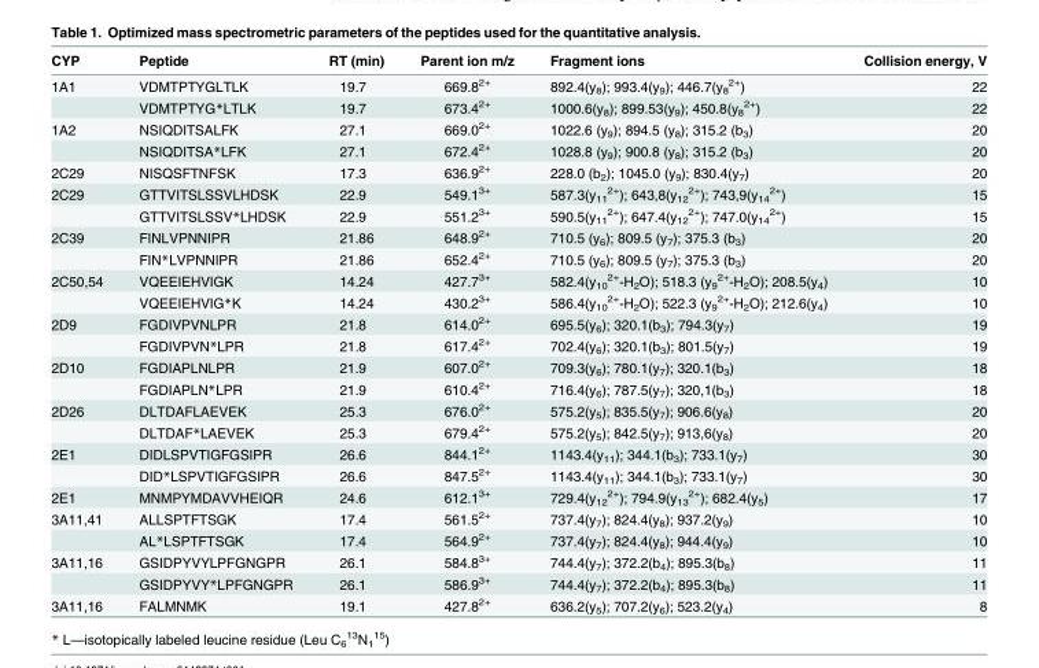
<table><thead><tr><td>CYP</td><td>Peptide</td><td>RT (min)</td><td>Parent ion m/z</td><td>Fragment ions</td><td>Collision energy, V</td></tr></thead><tbody><tr><td rowspan="2">1A1</td><td>VDMTPTYGLTLK</td><td>19.7</td><td>669.8<sup>2+</sup></td><td>892.4(y<sub>8</sub>); 993.4(y<sub>9</sub>); 446.7(y<sub>8</sub> <sup>2+</sup>)</td><td>22</td></tr><tr><td>VDMTPTYG*LTLK</td><td>19.7</td><td>673.4<sup>2+</sup></td><td>1000.6(y<sub>8</sub>); 899.53(y<sub>9</sub>); 450.8(y<sub>8</sub> <sup>2+</sup>)</td><td>22</td></tr><tr><td rowspan="2">1A2</td><td>NSIQDITSALFK</td><td>27.1</td><td>669.0<sup>2+</sup></td><td>1022.6 (y<sub>9</sub>); 894.5 (y<sub>8</sub>); 315.2 (b<sub>3</sub>)</td><td>20</td></tr><tr><td>NSIQDITSA*LFK</td><td>27.1</td><td>672.4<sup>2+</sup></td><td>1028.8 (y<sub>9</sub>); 900.8 (y<sub>8</sub>); 315.2 (b<sub>3</sub>)</td><td>20</td></tr><tr><td>2C29</td><td>NISQSFTNFSK</td><td>17.3</td><td>636.9<sup>2+</sup></td><td>228.0 (b<sub>2</sub>); 1045.0 (y<sub>9</sub>); 830.4(y<sub>7</sub>)</td><td>20</td></tr><tr><td rowspan="2">2C29</td><td>GTTVITSLSSVLHDSK</td><td>22.9</td><td>549.1<sup>3+</sup></td><td>587.3(y<sub>11</sub> <sup>2+</sup>); 643,8(y<sub>12</sub> <sup>2+</sup>); 743,9(y<sub>14</sub> <sup>2+</sup>)</td><td>15</td></tr><tr><td>GTTVITSLSSV*LHDSK</td><td>22.9</td><td>551.2<sup>3+</sup></td><td>590.5(y<sub>11</sub> <sup>2+</sup>); 647.4(y<sub>12</sub> <sup>2+</sup>); 747.0(y<sub>14</sub> <sup>2+</sup>)</td><td>15</td></tr><tr><td rowspan="2">2C39</td><td>FINLVPNNIPR</td><td>21.86</td><td>648.9<sup>2+</sup></td><td>710.5 (y<sub>6</sub>); 809.5 (y<sub>7</sub>); 375.3 (b<sub>3</sub>)</td><td>20</td></tr><tr><td>FIN*LVPNNIPR</td><td>21.86</td><td>652.4<sup>2+</sup></td><td>710.5 (y<sub>6</sub>); 809.5 (y<sub>7</sub>); 375.3 (b<sub>3</sub>)</td><td>20</td></tr><tr><td rowspan="2">2C50,54</td><td>VQEEIEHVIGK</td><td>14.24</td><td>427.7<sup>3+</sup></td><td>582.4(y<sub>10</sub> <sup>2+</sup>-H<sub>2</sub>O); 518.3 (y<sub>9</sub> <sup>2+</sup>-H<sub>2</sub>O); 208.5(y<sub>4</sub>)</td><td>10</td></tr><tr><td>VQEEIEHVIG*K</td><td>14.24</td><td>430.2<sup>3+</sup></td><td>586.4(y<sub>10</sub> <sup>2+</sup>-H<sub>2</sub>O); 522.3 (y<sub>9</sub> <sup>2+</sup>-H<sub>2</sub>O); 212.6(y<sub>4</sub>)</td><td>10</td></tr><tr><td rowspan="2">2D9</td><td>FGDIVPVNLPR</td><td>21.8</td><td>614.0<sup>2+</sup></td><td>695.5(y<sub>6</sub>); 320.1(b<sub>3</sub>); 794.3(y<sub>7</sub>)</td><td>19</td></tr><tr><td>FGDIVPVN*LPR</td><td>21.8</td><td>617.4<sup>2+</sup></td><td>702.4(y<sub>6</sub>); 320.1(b<sub>3</sub>); 801.5(y<sub>7</sub>)</td><td>19</td></tr><tr><td rowspan="2">2D10</td><td>FGDIAPLNLPR</td><td>21.9</td><td>607.0<sup>2+</sup></td><td>709.3(y<sub>6</sub>); 780.1(y<sub>7</sub>); 320.1(b<sub>3</sub>)</td><td>18</td></tr><tr><td>FGDIAPLN*LPR</td><td>21.9</td><td>610.4<sup>2+</sup></td><td>716.4(y<sub>6</sub>); 787.5(y<sub>7</sub>); 320,1(b<sub>3</sub>)</td><td>18</td></tr><tr><td rowspan="2">2D26</td><td>DLTDAFLAEVEK</td><td>25.3</td><td>676.0<sup>2+</sup></td><td>575.2(y<sub>5</sub>); 835.5(y<sub>7</sub>); 906.6(y<sub>8</sub>)</td><td>20</td></tr><tr><td>DLTDAF*LAEVEK</td><td>25.3</td><td>679.4<sup>2+</sup></td><td>575.2(y<sub>5</sub>); 842.5(y<sub>7</sub>); 913,6(y<sub>8</sub>)</td><td>20</td></tr><tr><td rowspan="2">2E1</td><td>DIDLSPVTIGFGSIPR</td><td>26.6</td><td>844.1<sup>2+</sup></td><td>1143.4(y<sub>11</sub>); 344.1(b<sub>3</sub>); 733.1(y<sub>7</sub>)</td><td>30</td></tr><tr><td>DID*LSPVTIGFGSIPR</td><td>26.6</td><td>847.5<sup>2+</sup></td><td>1143.4(y<sub>11</sub>); 344.1(b<sub>3</sub>); 733.1(y<sub>7</sub>)</td><td>30</td></tr><tr><td>2E1</td><td>MNMPYMDAVVHEIQR</td><td>24.6</td><td>612.1<sup>3+</sup></td><td>729.4(y<sub>12</sub> <sup>2+</sup>); 794.9(y<sub>13</sub> <sup>2+</sup>); 682.4(y<sub>5</sub>)</td><td>17</td></tr><tr><td rowspan="2">3A11,41</td><td>ALLSPTFTSGK</td><td>17.4</td><td>561.5<sup>2+</sup></td><td>737.4(y<sub>7</sub>); 824.4(y<sub>8</sub>); 937.2(y<sub>9</sub>)</td><td>10</td></tr><tr><td>AL*LSPTFTSGK</td><td>17.4</td><td>564.9<sup>2+</sup></td><td>737.4(y<sub>7</sub>); 824.4(y<sub>8</sub>); 944.4(y<sub>9</sub>)</td><td>10</td></tr><tr><td rowspan="2">3A11,16</td><td>GSIDPYVYLPFGNGPR</td><td>26.1</td><td>584.8<sup>3+</sup></td><td>744.4(y<sub>7</sub>); 372.2(b<sub>4</sub>); 895.3(b<sub>8</sub>)</td><td>11</td></tr><tr><td>GSIDPYVY*LPFGNGPR</td><td>26.1</td><td>586.9<sup>3+</sup></td><td>744.4(y<sub>7</sub>); 372.2(b<sub>4</sub>); 895.3(b<sub>8</sub>)</td><td>11</td></tr><tr><td>3A11,16</td><td>FALMNMK</td><td>19.1</td><td>427.8<sup>2+</sup></td><td>636.2(y<sub>5</sub>); 707.2(y<sub>6</sub>); 523.2(y<sub>4</sub>)</td><td>8</td></tr></tbody></table>